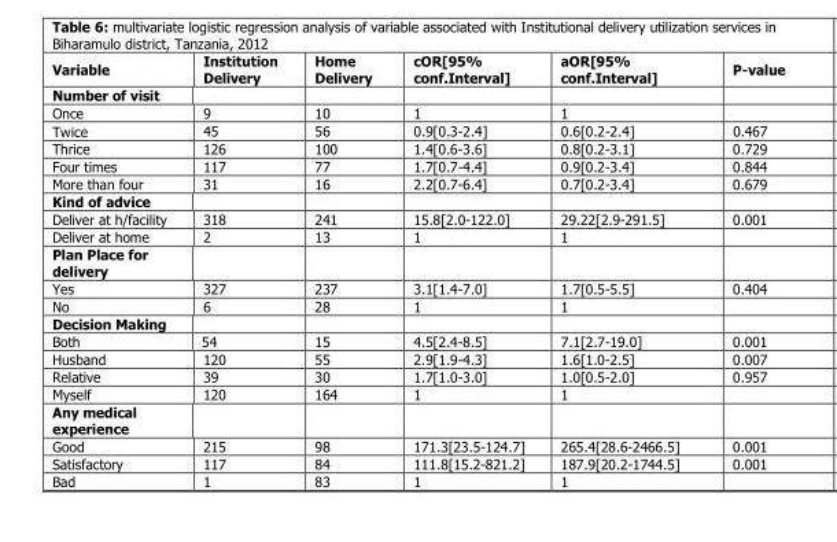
<table><thead><tr><td>Variable</td><td>Institution Delivery</td><td>Home Delivery</td><td>cOR[95% conf.Interval]</td><td>aOR[95% conf.Interval]</td><td>P-value</td></tr></thead><tbody><tr><td colspan="6">Number of visit</td></tr><tr><td>Once</td><td>9</td><td>10</td><td>1</td><td>1</td><td></td></tr><tr><td>Twice</td><td>45</td><td>56</td><td>0.9[0.3-2.4]</td><td>0.6[0.2-2.4]</td><td>0.467</td></tr><tr><td>Thrice</td><td>126</td><td>100</td><td>1.4[0.6-3.6]</td><td>0.8[0.2-3.1]</td><td>0.729</td></tr><tr><td>Four times</td><td>117</td><td>77</td><td>1.7[0.7-4.4]</td><td>0.9[0.2-3.4]</td><td>0.844</td></tr><tr><td>More than four</td><td>31</td><td>16</td><td>2.2[0.7-6.4]</td><td>0.7[0.2-3.4]</td><td>0.679</td></tr><tr><td colspan="6">Kind of advice</td></tr><tr><td>Deliver at h/facility</td><td>318</td><td>241</td><td>15.8[2.0-122.0]</td><td>29.22[2.9-291.5]</td><td>0.001</td></tr><tr><td>Deliver at home</td><td>2</td><td>13</td><td>1</td><td>1</td><td></td></tr><tr><td colspan="6">Plan Place for delivery</td></tr><tr><td>Yes</td><td>327</td><td>237</td><td>3.1[1.4-7.0]</td><td>1.7[0.5-5.5]</td><td>0.404</td></tr><tr><td>No</td><td>6</td><td>28</td><td>1</td><td>1</td><td></td></tr><tr><td colspan="6">Decision Making</td></tr><tr><td>Both</td><td>54</td><td>15</td><td>4.5[2.4-8.5]</td><td>7.1[2.7-19.0]</td><td>0.001</td></tr><tr><td>Husband</td><td>120</td><td>55</td><td>2.9[1.9-4.3]</td><td>1.6[1.0-2.5]</td><td>0.007</td></tr><tr><td>Relative</td><td>39</td><td>30</td><td>1.7[1.0-3.0]</td><td>1.0[0.5-2.0]</td><td>0.957</td></tr><tr><td>Myself</td><td>120</td><td>164</td><td>1</td><td>1</td><td></td></tr><tr><td colspan="6">Any medical experience</td></tr><tr><td>Good</td><td>215</td><td>98</td><td>171.3[23.5-124.7]</td><td>265.4[28.6-2466.5]</td><td>0.001</td></tr><tr><td>Satisfactory</td><td>117</td><td>84</td><td>111.8[15.2-821.2]</td><td>187.9[20.2-1744.5]</td><td>0.001</td></tr><tr><td>Bad</td><td>1</td><td>83</td><td>1</td><td>1</td><td></td></tr></tbody></table>